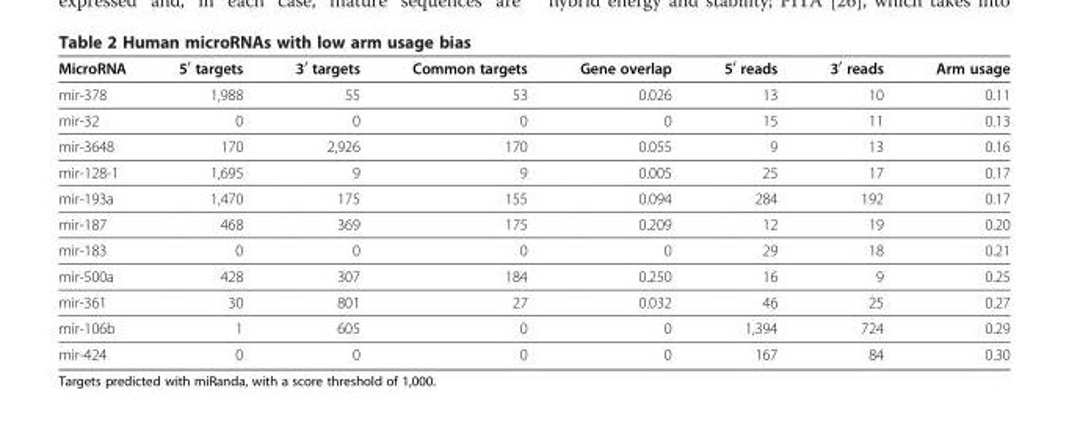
<table><thead><tr><td>MicroRNA</td><td>5′ targets</td><td>3′ targets</td><td>Common targets</td><td>Gene overlap</td><td>5′ reads</td><td>3′ reads</td><td>Arm usage</td></tr></thead><tbody><tr><td>mir-378</td><td>1,988</td><td>55</td><td>53</td><td>0.026</td><td>13</td><td>10</td><td>0.11</td></tr><tr><td>mir-32</td><td>0</td><td>0</td><td>0</td><td>0</td><td>15</td><td>11</td><td>0.13</td></tr><tr><td>mir-3648</td><td>170</td><td>2,926</td><td>170</td><td>0.055</td><td>9</td><td>13</td><td>0.16</td></tr><tr><td>mir-128-1</td><td>1,695</td><td>9</td><td>9</td><td>0.005</td><td>25</td><td>17</td><td>0.17</td></tr><tr><td>mir-193a</td><td>1,470</td><td>175</td><td>155</td><td>0.094</td><td>284</td><td>192</td><td>0.17</td></tr><tr><td>mir-187</td><td>468</td><td>369</td><td>175</td><td>0.209</td><td>12</td><td>19</td><td>0.20</td></tr><tr><td>mir-183</td><td>0</td><td>0</td><td>0</td><td>0</td><td>29</td><td>18</td><td>0.21</td></tr><tr><td>mir-500a</td><td>428</td><td>307</td><td>184</td><td>0.250</td><td>16</td><td>9</td><td>0.25</td></tr><tr><td>mir-361</td><td>30</td><td>801</td><td>27</td><td>0.032</td><td>46</td><td>25</td><td>0.27</td></tr><tr><td>mir-106b</td><td>1</td><td>605</td><td>0</td><td>0</td><td>1,394</td><td>724</td><td>0.29</td></tr><tr><td>mir-424</td><td>0</td><td>0</td><td>0</td><td>0</td><td>167</td><td>84</td><td>0.30</td></tr></tbody></table>